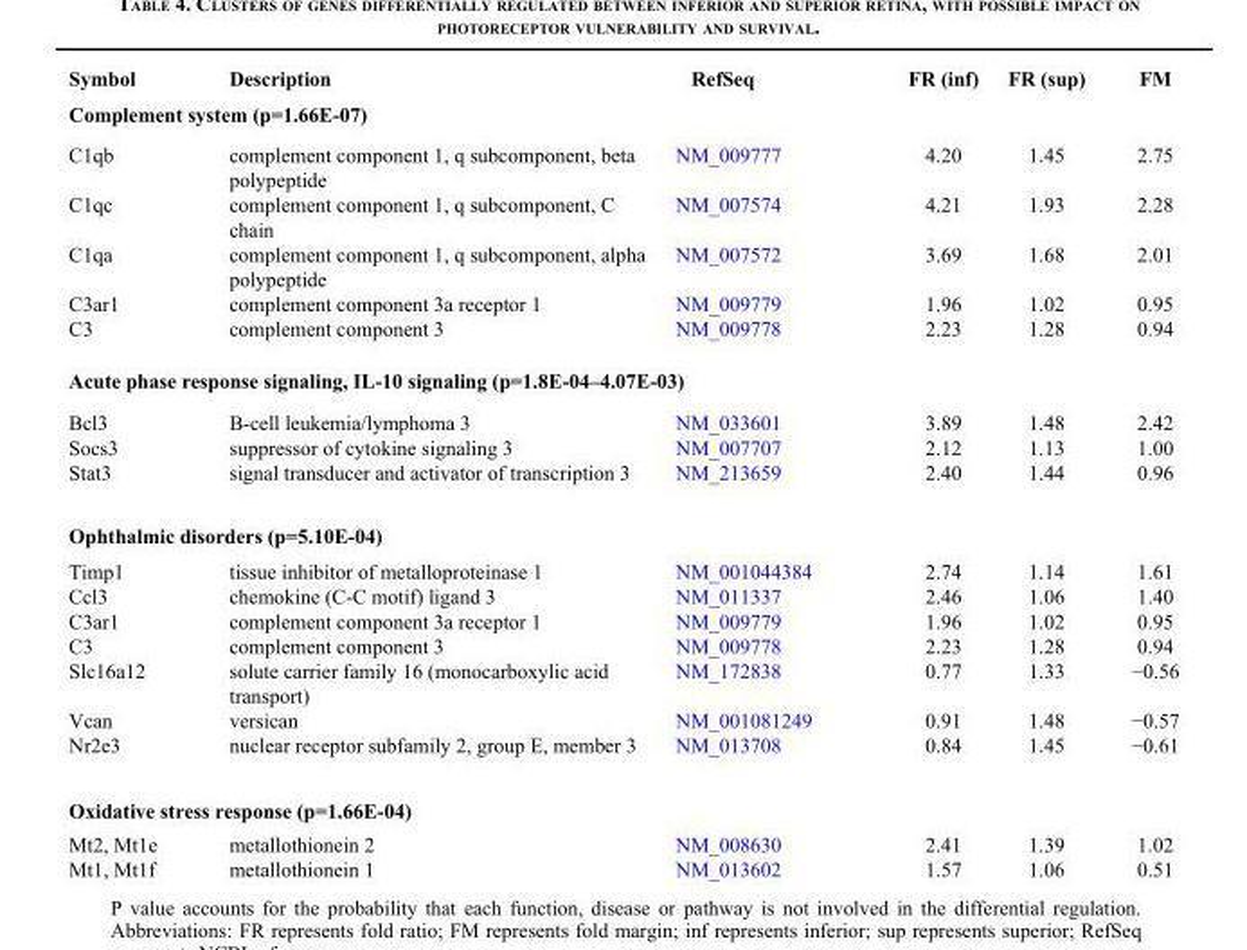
<table><thead><tr><td>Symbol</td><td>Description</td><td>RefSeq</td><td>FR (inf)</td><td>FR (sup)</td><td>FM</td></tr></thead><tbody><tr><td colspan="6">Complement system (p=1.66E-07)</td></tr><tr><td>C1qb</td><td>complement component 1, q subcomponent, beta polypeptide</td><td>NM_009777</td><td>4.20</td><td>1.45</td><td>2.75</td></tr><tr><td>C1qc</td><td>complement component 1, q subcomponent, C chain</td><td>NM_007574</td><td>4.21</td><td>1.93</td><td>2.28</td></tr><tr><td>C1qa</td><td>complement component 1, q subcomponent, alpha polypeptide</td><td>NM_007572</td><td>3.69</td><td>1.68</td><td>2.01</td></tr><tr><td>C3ar1</td><td>complement component 3a receptor 1</td><td>NM_009779</td><td>1.96</td><td>1.02</td><td>0.95</td></tr><tr><td>C3</td><td>complement component 3</td><td>NM_009778</td><td>2.23</td><td>1.28</td><td>0.94</td></tr><tr><td colspan="6">Acute phase response signaling, IL-10 signaling (p=1.8E-04–4.07E-03)</td></tr><tr><td>Bcl3</td><td>B-cell leukemia/lymphoma 3</td><td>NM_033601</td><td>3.89</td><td>1.48</td><td>2.42</td></tr><tr><td>Socs3</td><td>suppressor of cytokine signaling 3</td><td>NM_007707</td><td>2.12</td><td>1.13</td><td>1.00</td></tr><tr><td>Stat3</td><td>signal transducer and activator of transcription 3</td><td>NM_213659</td><td>2.40</td><td>1.44</td><td>0.96</td></tr><tr><td colspan="6">Ophthalmic disorders (p=5.10E-04)</td></tr><tr><td>Timp1</td><td>tissue inhibitor of metalloproteinase 1</td><td>NM_001044384</td><td>2.74</td><td>1.14</td><td>1.61</td></tr><tr><td>Ccl3</td><td>chemokine (C-C motif) ligand 3</td><td>NM_011337</td><td>2.46</td><td>1.06</td><td>1.40</td></tr><tr><td>C3ar1</td><td>complement component 3a receptor 1</td><td>NM_009779</td><td>1.96</td><td>1.02</td><td>0.95</td></tr><tr><td>C3</td><td>complement component 3</td><td>NM_009778</td><td>2.23</td><td>1.28</td><td>0.94</td></tr><tr><td>Slc16a12</td><td>solute carrier family 16 (monocarboxylic acid transport)</td><td>NM_172838</td><td>0.77</td><td>1.33</td><td>−0.56</td></tr><tr><td>Vcan</td><td>versican</td><td>NM_001081249</td><td>0.91</td><td>1.48</td><td>−0.57</td></tr><tr><td>Nr2e3</td><td>nuclear receptor subfamily 2, group E, member 3</td><td>NM_013708</td><td>0.84</td><td>1.45</td><td>−0.61</td></tr><tr><td colspan="6">Oxidative stress response (p=1.66E-04)</td></tr><tr><td>Mt2, Mt1e</td><td>metallothionein 2</td><td>NM_008630</td><td>2.41</td><td>1.39</td><td>1.02</td></tr><tr><td>Mt1, Mt1f</td><td>metallothionein 1</td><td>NM_013602</td><td>1.57</td><td>1.06</td><td>0.51</td></tr></tbody></table>